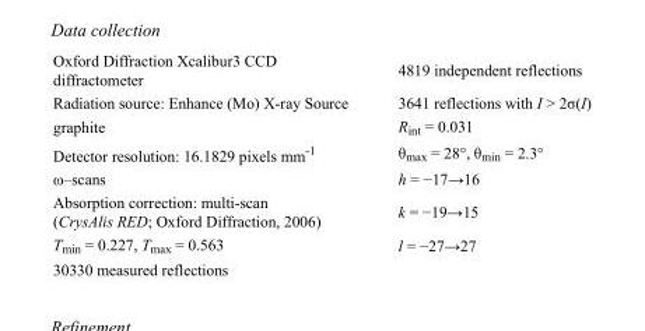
<table><tbody><tr><td>Oxford Diffraction Xcalibur3 CCD diffractometer</td><td>4819 independent reflections</td></tr><tr><td>Radiation source: Enhance (Mo) X-ray Source</td><td>3641 reflections with I &gt; 2σ(I)</td></tr><tr><td>graphite</td><td>R<sub>int</sub> = 0.031</td></tr><tr><td>Detector resolution: 16.1829 pixels mm<sup>-1</sup></td><td>θ<sub>max</sub> = 28°, θ<sub>min</sub> = 2.3°</td></tr><tr><td>ω–scans</td><td>h = −17→16</td></tr><tr><td>Absorption correction: multi-scan (CrysAlis RED; Oxford Diffraction, 2006)</td><td>k = −19→15</td></tr><tr><td>T<sub>min</sub> = 0.227, T<sub>max</sub> = 0.563</td><td>l = −27→27</td></tr><tr><td>30330 measured reflections</td><td></td></tr></tbody></table>